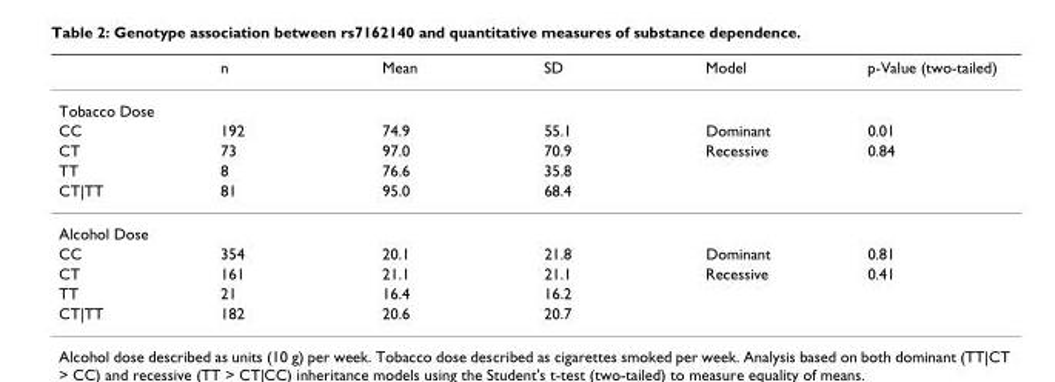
<table><thead><tr><td></td><td>n</td><td>Mean</td><td>SD</td><td>Model</td><td>p-Value (two-tailed)</td></tr></thead><tbody><tr><td colspan="6">Tobacco Dose</td></tr><tr><td>CC</td><td>192</td><td>74.9</td><td>55.1</td><td>Dominant</td><td>0.01</td></tr><tr><td>CT</td><td>73</td><td>97.0</td><td>70.9</td><td>Recessive</td><td>0.84</td></tr><tr><td>TT</td><td>8</td><td>76.6</td><td>35.8</td><td></td><td></td></tr><tr><td>CT|TT</td><td>81</td><td>95.0</td><td>68.4</td><td></td><td></td></tr><tr><td colspan="6">Alcohol Dose</td></tr><tr><td>CC</td><td>354</td><td>20.1</td><td>21.8</td><td>Dominant</td><td>0.81</td></tr><tr><td>CT</td><td>161</td><td>21.1</td><td>21.1</td><td>Recessive</td><td>0.41</td></tr><tr><td>TT</td><td>21</td><td>16.4</td><td>16.2</td><td></td><td></td></tr><tr><td>CT|TT</td><td>182</td><td>20.6</td><td>20.7</td><td></td><td></td></tr></tbody></table>